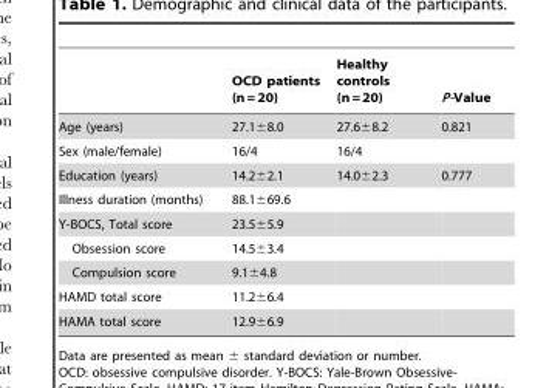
<table><thead><tr><td></td><td>OCD patients (n = 20)</td><td>Healthy controls (n = 20)</td><td>P-Value</td></tr></thead><tbody><tr><td>Age (years)</td><td>27.1±8.0</td><td>27.6±8.2</td><td>0.821</td></tr><tr><td>Sex (male/female)</td><td>16/4</td><td>16/4</td><td></td></tr><tr><td>Education (years)</td><td>14.2±2.1</td><td>14.0±2.3</td><td>0.777</td></tr><tr><td>Illness duration (months)</td><td>88.1±69.6</td><td></td><td></td></tr><tr><td>Y-BOCS, Total score</td><td>23.5±5.9</td><td></td><td></td></tr><tr><td>Obsession score</td><td>14.5±3.4</td><td></td><td></td></tr><tr><td>Compulsion score</td><td>9.1±4.8</td><td></td><td></td></tr><tr><td>HAMD total score</td><td>11.2±6.4</td><td></td><td></td></tr><tr><td>HAMA total score</td><td>12.9±6.9</td><td></td><td></td></tr></tbody></table>